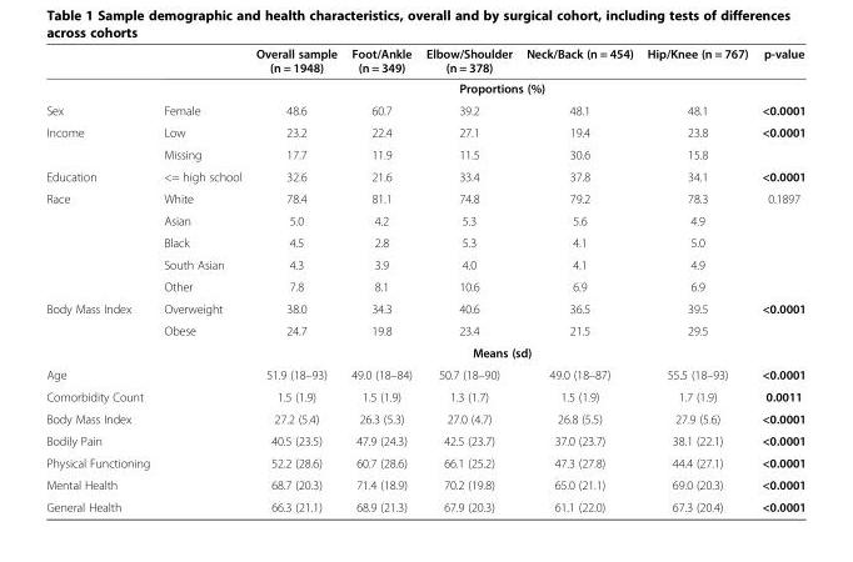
<table><thead><tr><td></td><td></td><td>Overall sample (n = 1948)</td><td>Foot/Ankle (n = 349)</td><td>Elbow/Shoulder (n = 378)</td><td>Neck/Back (n = 454)</td><td>Hip/Knee (n = 767)</td><td>p-value</td></tr></thead><tbody><tr><td colspan="8">Proportions (%)</td></tr><tr><td>Sex</td><td>Female</td><td>48.6</td><td>60.7</td><td>39.2</td><td>48.1</td><td>48.1</td><td>&lt;0.0001</td></tr><tr><td rowspan="2">Income</td><td>Low</td><td>23.2</td><td>22.4</td><td>27.1</td><td>19.4</td><td>23.8</td><td>&lt;0.0001</td></tr><tr><td>Missing</td><td>17.7</td><td>11.9</td><td>11.5</td><td>30.6</td><td>15.8</td><td></td></tr><tr><td>Education</td><td>&lt;= high school</td><td>32.6</td><td>21.6</td><td>33.4</td><td>37.8</td><td>34.1</td><td>&lt;0.0001</td></tr><tr><td rowspan="5">Race</td><td>White</td><td>78.4</td><td>81.1</td><td>74.8</td><td>79.2</td><td>78.3</td><td>0.1897</td></tr><tr><td>Asian</td><td>5.0</td><td>4.2</td><td>5.3</td><td>5.6</td><td>4.9</td><td></td></tr><tr><td>Black</td><td>4.5</td><td>2.8</td><td>5.3</td><td>4.1</td><td>5.0</td><td></td></tr><tr><td>South Asian</td><td>4.3</td><td>3.9</td><td>4.0</td><td>4.1</td><td>4.9</td><td></td></tr><tr><td>Other</td><td>7.8</td><td>8.1</td><td>10.6</td><td>6.9</td><td>6.9</td><td></td></tr><tr><td rowspan="2">Body Mass Index</td><td>Overweight</td><td>38.0</td><td>34.3</td><td>40.6</td><td>36.5</td><td>39.5</td><td>&lt;0.0001</td></tr><tr><td>Obese</td><td>24.7</td><td>19.8</td><td>23.4</td><td>21.5</td><td>29.5</td><td></td></tr><tr><td colspan="8">Means (sd)</td></tr><tr><td>Age</td><td></td><td>51.9 (18–93)</td><td>49.0 (18–84)</td><td>50.7 (18–90)</td><td>49.0 (18–87)</td><td>55.5 (18–93)</td><td>&lt;0.0001</td></tr><tr><td>Comorbidity Count</td><td></td><td>1.5 (1.9)</td><td>1.5 (1.9)</td><td>1.3 (1.7)</td><td>1.5 (1.9)</td><td>1.7 (1.9)</td><td>0.0011</td></tr><tr><td>Body Mass Index</td><td></td><td>27.2 (5.4)</td><td>26.3 (5.3)</td><td>27.0 (4.7)</td><td>26.8 (5.5)</td><td>27.9 (5.6)</td><td>&lt;0.0001</td></tr><tr><td>Bodily Pain</td><td></td><td>40.5 (23.5)</td><td>47.9 (24.3)</td><td>42.5 (23.7)</td><td>37.0 (23.7)</td><td>38.1 (22.1)</td><td>&lt;0.0001</td></tr><tr><td>Physical Functioning</td><td></td><td>52.2 (28.6)</td><td>60.7 (28.6)</td><td>66.1 (25.2)</td><td>47.3 (27.8)</td><td>44.4 (27.1)</td><td>&lt;0.0001</td></tr><tr><td>Mental Health</td><td></td><td>68.7 (20.3)</td><td>71.4 (18.9)</td><td>70.2 (19.8)</td><td>65.0 (21.1)</td><td>69.0 (20.3)</td><td>&lt;0.0001</td></tr><tr><td>General Health</td><td></td><td>66.3 (21.1)</td><td>68.9 (21.3)</td><td>67.9 (20.3)</td><td>61.1 (22.0)</td><td>67.3 (20.4)</td><td>&lt;0.0001</td></tr></tbody></table>